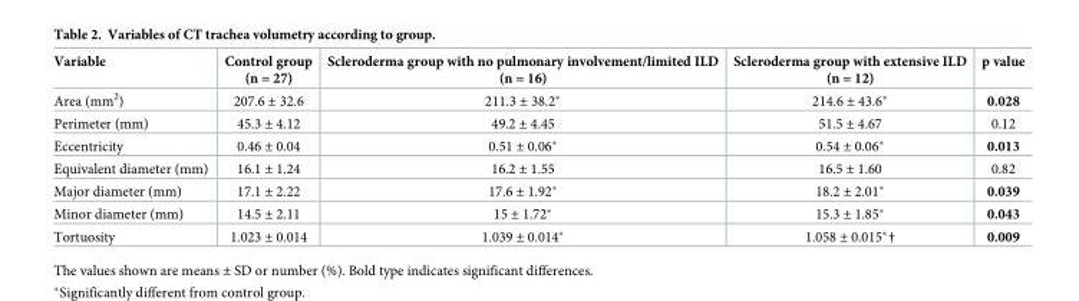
<table><thead><tr><td>Variable</td><td>Control group (n = 27)</td><td>Scleroderma group with no pulmonary involvement/limited ILD (n = 16)</td><td>Scleroderma group with extensive ILD (n = 12)</td><td>p value</td></tr></thead><tbody><tr><td>Area (mm<sup>2</sup>)</td><td>207.6 ± 32.6</td><td>211.3 ± 38.2*</td><td>214.6 ± 43.6*</td><td>0.028</td></tr><tr><td>Perimeter (mm)</td><td>45.3 ± 4.12</td><td>49.2 ± 4.45</td><td>51.5 ± 4.67</td><td>0.12</td></tr><tr><td>Eccentricity</td><td>0.46 ± 0.04</td><td>0.51 ± 0.06*</td><td>0.54 ± 0.06*</td><td>0.013</td></tr><tr><td>Equivalent diameter (mm)</td><td>16.1 ± 1.24</td><td>16.2 ± 1.55</td><td>16.5 ± 1.60</td><td>0.82</td></tr><tr><td>Major diameter (mm)</td><td>17.1 ± 2.22</td><td>17.6 ± 1.92*</td><td>18.2 ± 2.01*</td><td>0.039</td></tr><tr><td>Minor diameter (mm)</td><td>14.5 ± 2.11</td><td>15 ± 1.72*</td><td>15.3 ± 1.85*</td><td>0.043</td></tr><tr><td>Tortuosity</td><td>1.023 ± 0.014</td><td>1.039 ± 0.014*</td><td>1.058 ± 0.015*†</td><td>0.009</td></tr></tbody></table>